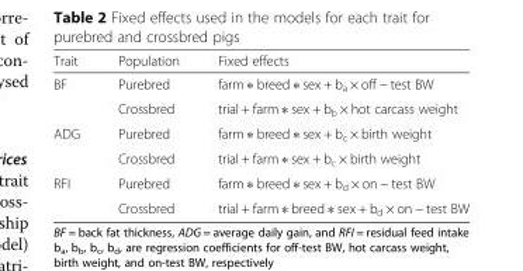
<table><thead><tr><td>Trait</td><td>Population</td><td>Fixed effects</td></tr></thead><tbody><tr><td rowspan="2">BF</td><td>Purebred</td><td>farm ∗ breed ∗ sex + b<sub>a</sub> × off − test BW</td></tr><tr><td>Crossbred</td><td>trial + farm ∗ sex + b<sub>b</sub> × hot carcass weight</td></tr><tr><td rowspan="2">ADG</td><td>Purebred</td><td>farm ∗ breed ∗ sex + b<sub>c</sub> × birth weight</td></tr><tr><td>Crossbred</td><td>trial + farm ∗ sex + b<sub>c</sub> × birth weight</td></tr><tr><td rowspan="2">RFI</td><td>Purebred</td><td>farm ∗ breed ∗ sex + b<sub>d</sub> × on − test BW</td></tr><tr><td>Crossbred</td><td>trial + farm ∗ breed ∗ sex + b<sub>d</sub> × on − test BW</td></tr></tbody></table>